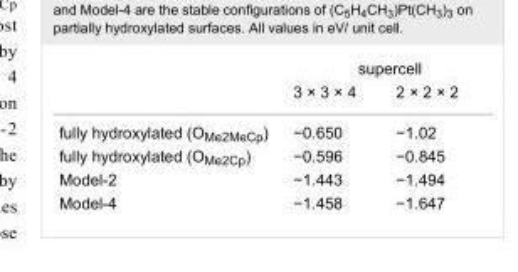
<table><thead><tr><td rowspan="2"></td><td colspan="2">supercell</td></tr><tr><td>3 × 3 × 4</td><td>2 × 2 × 2</td></tr></thead><tbody><tr><td>fully hydroxylated (O<sub>Me2MeCp</sub>)</td><td>−0.650</td><td>−1.02</td></tr><tr><td>fully hydroxylated (O<sub>Me2Cp</sub>)</td><td>−0.596</td><td>−0.845</td></tr><tr><td>Model-2</td><td>−1.443</td><td>−1.494</td></tr><tr><td>Model-4</td><td>−1.458</td><td>−1.647</td></tr></tbody></table>